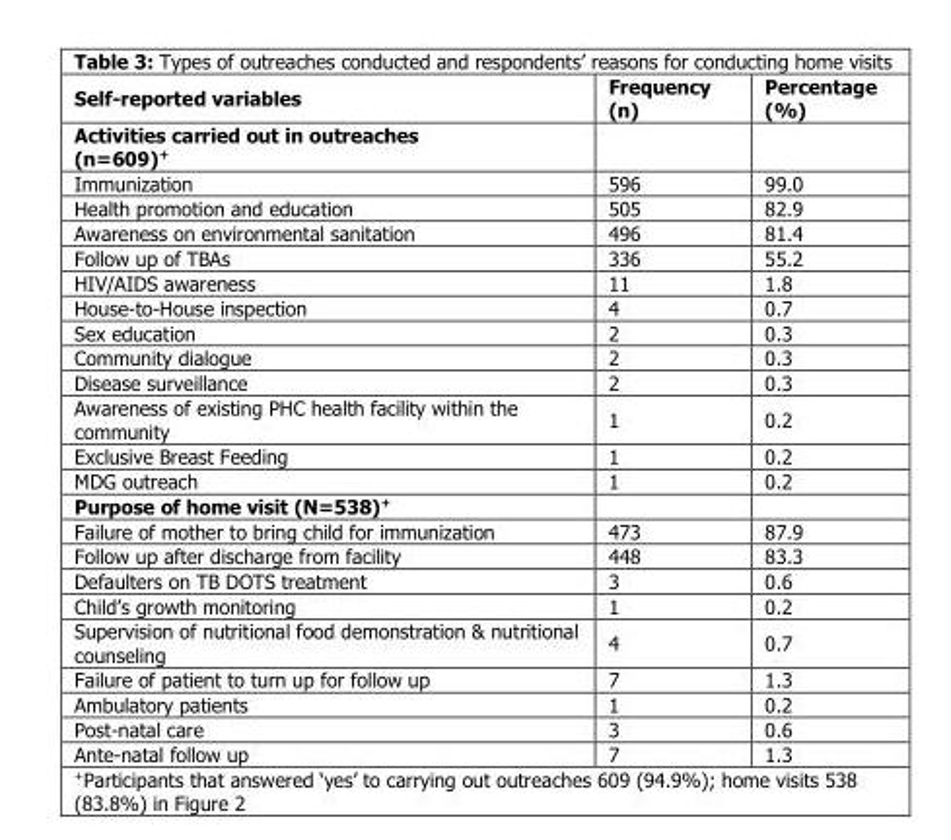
<table><thead><tr><td>Self-reported variables</td><td>Frequency (n)</td><td>Percentage (%)</td></tr></thead><tbody><tr><td colspan="3">Activities carried out in outreaches (n=609)+</td></tr><tr><td>Immunization</td><td>596</td><td>99.0</td></tr><tr><td>Health promotion and education</td><td>505</td><td>82.9</td></tr><tr><td>Awareness on environmental sanitation</td><td>496</td><td>81.4</td></tr><tr><td>Follow up of TBAs</td><td>336</td><td>55.2</td></tr><tr><td>HIV/AIDS awareness</td><td>11</td><td>1.8</td></tr><tr><td>House-to-House inspection</td><td>4</td><td>0.7</td></tr><tr><td>Sex education</td><td>2</td><td>0.3</td></tr><tr><td>Community dialogue</td><td>2</td><td>0.3</td></tr><tr><td>Disease surveillance</td><td>2</td><td>0.3</td></tr><tr><td>Awareness of existing PHC health facility within the community</td><td>1</td><td>0.2</td></tr><tr><td>Exclusive Breast Feeding</td><td>1</td><td>0.2</td></tr><tr><td>MDG outreach</td><td>1</td><td>0.2</td></tr><tr><td colspan="3">Purpose of home visit (N=538)+</td></tr><tr><td>Failure of mother to bring child for immunization</td><td>473</td><td>87.9</td></tr><tr><td>Follow up after discharge from facility</td><td>448</td><td>83.3</td></tr><tr><td>Defaulters on TB DOTS treatment</td><td>3</td><td>0.6</td></tr><tr><td>Child’s growth monitoring</td><td>1</td><td>0.2</td></tr><tr><td>Supervision of nutritional food demonstration &amp; nutritional counseling</td><td>4</td><td>0.7</td></tr><tr><td>Failure of patient to turn up for follow up</td><td>7</td><td>1.3</td></tr><tr><td>Ambulatory patients</td><td>1</td><td>0.2</td></tr><tr><td>Post-natal care</td><td>3</td><td>0.6</td></tr><tr><td>Ante-natal follow up</td><td>7</td><td>1.3</td></tr></tbody></table>